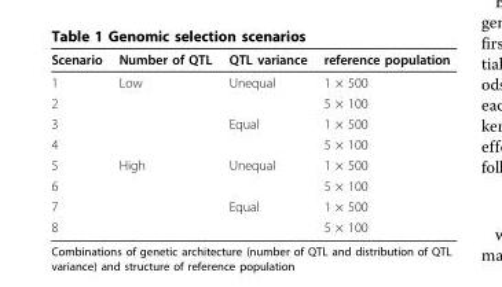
<table><thead><tr><td>Scenario</td><td>Number of QTL</td><td>QTL variance</td><td>reference population</td></tr></thead><tbody><tr><td>1</td><td>Low</td><td>Unequal</td><td>1 × 500</td></tr><tr><td>2</td><td></td><td></td><td>5 × 100</td></tr><tr><td>3</td><td></td><td>Equal</td><td>1 × 500</td></tr><tr><td>4</td><td></td><td></td><td>5 × 100</td></tr><tr><td>5</td><td>High</td><td>Unequal</td><td>1 × 500</td></tr><tr><td>6</td><td></td><td></td><td>5 × 100</td></tr><tr><td>7</td><td></td><td>Equal</td><td>1 × 500</td></tr><tr><td>8</td><td></td><td></td><td>5 × 100</td></tr></tbody></table>